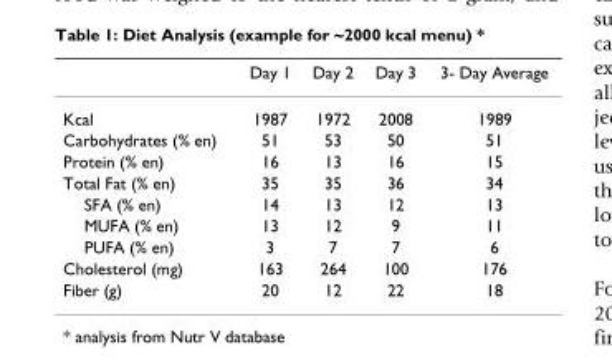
<table><thead><tr><td></td><td>Day 1</td><td>Day 2</td><td>Day 3</td><td>3- Day Average</td></tr></thead><tbody><tr><td>Kcal</td><td>1987</td><td>1972</td><td>2008</td><td>1989</td></tr><tr><td>Carbohydrates (% en)</td><td>51</td><td>53</td><td>50</td><td>51</td></tr><tr><td>Protein (% en)</td><td>16</td><td>13</td><td>16</td><td>15</td></tr><tr><td>Total Fat (% en)</td><td>35</td><td>35</td><td>36</td><td>34</td></tr><tr><td>SFA (% en)</td><td>14</td><td>13</td><td>12</td><td>13</td></tr><tr><td>MUFA (% en)</td><td>13</td><td>12</td><td>9</td><td>11</td></tr><tr><td>PUFA (% en)</td><td>3</td><td>7</td><td>7</td><td>6</td></tr><tr><td>Cholesterol (mg)</td><td>163</td><td>264</td><td>100</td><td>176</td></tr><tr><td>Fiber (g)</td><td>20</td><td>12</td><td>22</td><td>18</td></tr></tbody></table>